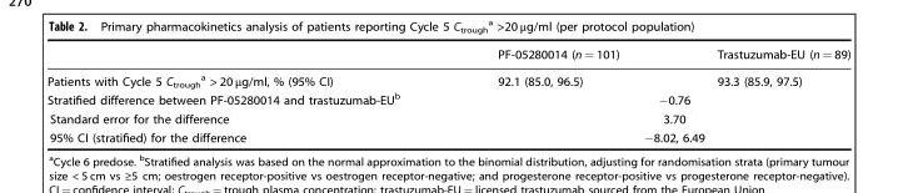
<table><thead><tr><td></td><td>PF-05280014 (n = 101)</td><td>Trastuzumab-EU (n = 89)</td></tr></thead><tbody><tr><td>Patients with Cycle 5 C<sub>trough</sub> <sup>a</sup> &gt; 20 μg/ml, % (95% CI)</td><td>92.1 (85.0, 96.5)</td><td>93.3 (85.9, 97.5)</td></tr><tr><td>Stratified difference between PF-05280014 and trastuzumab-EU<sup>b</sup></td><td colspan="2">−0.76</td></tr><tr><td>Standard error for the difference</td><td colspan="2">3.70</td></tr><tr><td>95% CI (stratified) for the difference</td><td colspan="2">−8.02, 6.49</td></tr></tbody></table>